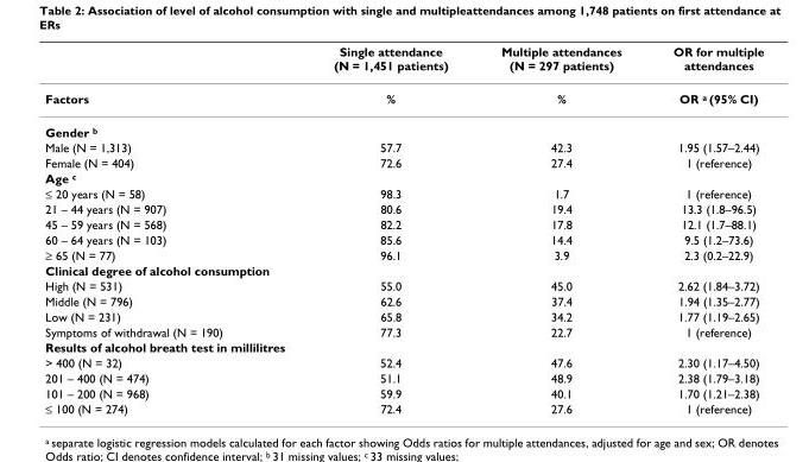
<table><thead><tr><td></td><td>Single attendance (N = 1,451 patients)</td><td>Multiple attendances (N = 297 patients)</td><td>OR for multiple attendances</td></tr></thead><tbody><tr><td>Factors</td><td>%</td><td>%</td><td>OR <sup>a</sup> (95% CI)</td></tr><tr><td colspan="4">Gender <sup>b</sup></td></tr><tr><td>Male (N = 1,313)</td><td>57.7</td><td>42.3</td><td>1.95 (1.57–2.44)</td></tr><tr><td>Female (N = 404)</td><td>72.6</td><td>27.4</td><td>1 (reference)</td></tr><tr><td colspan="4">Age <sup>c</sup></td></tr><tr><td>≤ 20 years (N = 58)</td><td>98.3</td><td>1.7</td><td>1 (reference)</td></tr><tr><td>21 – 44 years (N = 907)</td><td>80.6</td><td>19.4</td><td>13.3 (1.8–96.5)</td></tr><tr><td>45 – 59 years (N = 568)</td><td>82.2</td><td>17.8</td><td>12.1 (1.7–88.1)</td></tr><tr><td>60 – 64 years (N = 103)</td><td>85.6</td><td>14.4</td><td>9.5 (1.2–73.6)</td></tr><tr><td>≥ 65 (N = 77)</td><td>96.1</td><td>3.9</td><td>2.3 (0.2–22.9)</td></tr><tr><td colspan="4">Clinical degree of alcohol consumption</td></tr><tr><td>High (N = 531)</td><td>55.0</td><td>45.0</td><td>2.62 (1.84–3.72)</td></tr><tr><td>Middle (N = 796)</td><td>62.6</td><td>37.4</td><td>1.94 (1.35–2.77)</td></tr><tr><td>Low (N = 231)</td><td>65.8</td><td>34.2</td><td>1.77 (1.19–2.65)</td></tr><tr><td>Symptoms of withdrawal (N = 190)</td><td>77.3</td><td>22.7</td><td>1 (reference)</td></tr><tr><td colspan="4">Results of alcohol breath test in millilitres</td></tr><tr><td>&gt; 400 (N = 32)</td><td>52.4</td><td>47.6</td><td>2.30 (1.17–4.50)</td></tr><tr><td>201 – 400 (N = 474)</td><td>51.1</td><td>48.9</td><td>2.38 (1.79–3.18)</td></tr><tr><td>101 – 200 (N = 968)</td><td>59.9</td><td>40.1</td><td>1.70 (1.21–2.38)</td></tr><tr><td>≤ 100 (N = 274)</td><td>72.4</td><td>27.6</td><td>1 (reference)</td></tr></tbody></table>